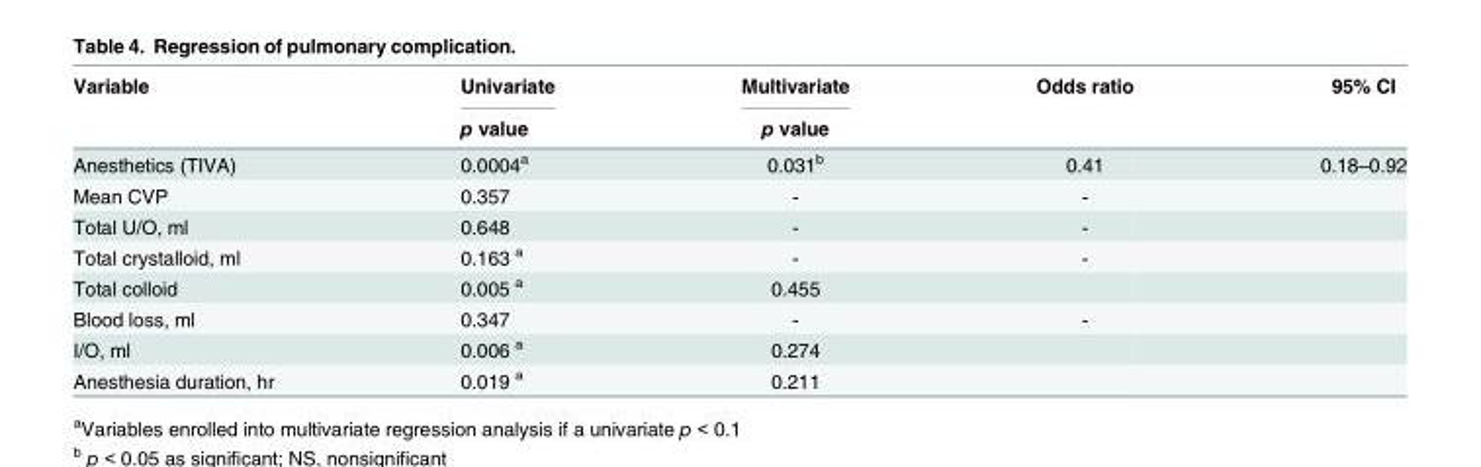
<table><thead><tr><td rowspan="2">Variable</td><td rowspan="2">Univariate p value</td><td rowspan="2">Multivariate p value</td><td rowspan="2">Odds ratio</td><td rowspan="2">95% CI</td></tr><tr></tr></thead><tbody><tr><td>Anesthetics (TIVA)</td><td>0.0004<sup>a</sup></td><td>0.031<sup>b</sup></td><td>0.41</td><td>0.18–0.92</td></tr><tr><td>Mean CVP</td><td>0.357</td><td>-</td><td>-</td><td></td></tr><tr><td>Total U/O, ml</td><td>0.648</td><td>-</td><td>-</td><td></td></tr><tr><td>Total crystalloid, ml</td><td>0.163 <sup>a</sup></td><td>-</td><td>-</td><td></td></tr><tr><td>Total colloid</td><td>0.005 <sup>a</sup></td><td>0.455</td><td></td><td></td></tr><tr><td>Blood loss, ml</td><td>0.347</td><td>-</td><td>-</td><td></td></tr><tr><td>I/O, ml</td><td>0.006 <sup>a</sup></td><td>0.274</td><td></td><td></td></tr><tr><td>Anesthesia duration, hr</td><td>0.019 <sup>a</sup></td><td>0.211</td><td></td><td></td></tr></tbody></table>